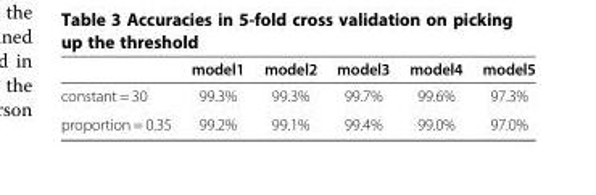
<table><thead><tr><td></td><td>model1</td><td>model2</td><td>model3</td><td>model4</td><td>model5</td></tr></thead><tbody><tr><td>constant = 30</td><td>99.3%</td><td>99.3%</td><td>99.7%</td><td>99.6%</td><td>97.3%</td></tr><tr><td>proportion = 0.35</td><td>99.2%</td><td>99.1%</td><td>99.4%</td><td>99.0%</td><td>97.0%</td></tr></tbody></table>